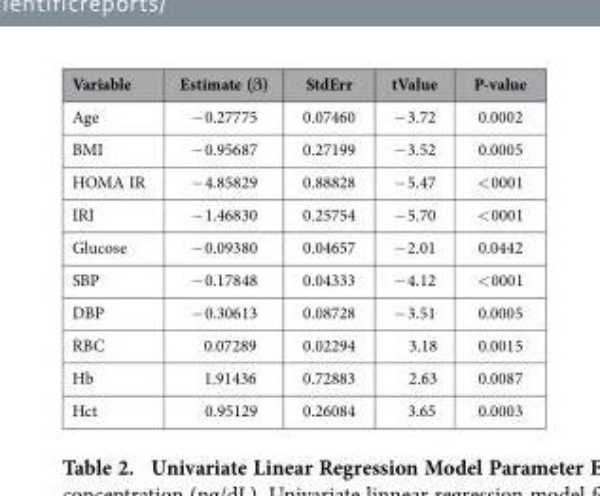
<table><thead><tr><td>Variable</td><td>Estimate (β)</td><td>StdErr</td><td>tValue</td><td>P-value</td></tr></thead><tbody><tr><td>Age</td><td>− 0.27775</td><td>0.07460</td><td>− 3.72</td><td>0.0002</td></tr><tr><td>BMI</td><td>− 0.95687</td><td>0.27199</td><td>− 3.52</td><td>0.0005</td></tr><tr><td>HOMA IR</td><td>− 4.85829</td><td>0.88828</td><td>− 5.47</td><td>&lt; 0001</td></tr><tr><td>IRI</td><td>− 1.46830</td><td>0.25754</td><td>− 5.70</td><td>&lt; 0001</td></tr><tr><td>Glucose</td><td>− 0.09380</td><td>0.04657</td><td>− 2.01</td><td>0.0442</td></tr><tr><td>SBP</td><td>− 0.17848</td><td>0.04333</td><td>− 4.12</td><td>&lt; 0001</td></tr><tr><td>DBP</td><td>− 0.30613</td><td>0.08728</td><td>− 3.51</td><td>0.0005</td></tr><tr><td>RBC</td><td>0.07289</td><td>0.02294</td><td>3.18</td><td>0.0015</td></tr><tr><td>Hb</td><td>1.91436</td><td>0.72883</td><td>2.63</td><td>0.0087</td></tr><tr><td>Hct</td><td>0.95129</td><td>0.26084</td><td>3.65</td><td>0.0003</td></tr></tbody></table>